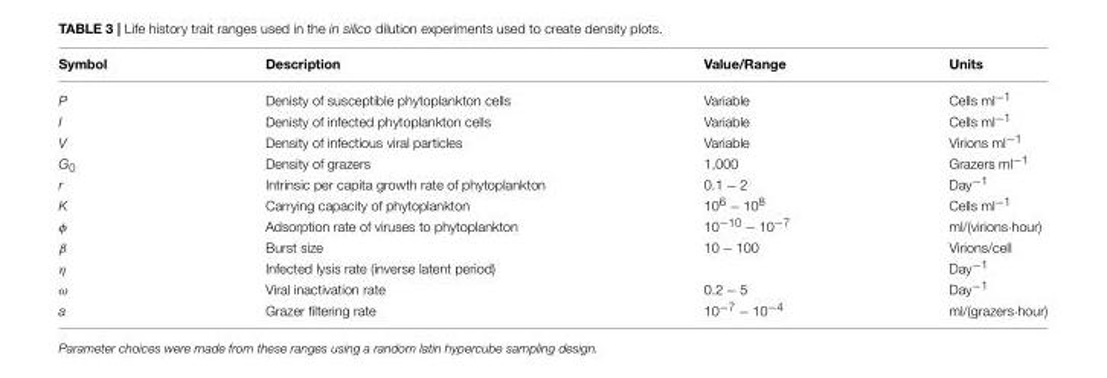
<table><thead><tr><td>Symbol</td><td>Description</td><td>Value/Range</td><td>Units</td></tr></thead><tbody><tr><td>P</td><td>Denisty of susceptible phytoplankton cells</td><td>Variable</td><td>Cells ml<sup>−1</sup></td></tr><tr><td>I</td><td>Denisty of infected phytoplankton cells</td><td>Variable</td><td>Cells ml<sup>−1</sup></td></tr><tr><td>V</td><td>Density of infectious viral particles</td><td>Variable</td><td>Virions ml<sup>−1</sup></td></tr><tr><td>G<sub>0</sub></td><td>Density of grazers</td><td>1,000</td><td>Grazers ml<sup>−1</sup></td></tr><tr><td>r</td><td>Intrinsic per capita growth rate of phytoplankton</td><td>0.1 − 2</td><td>Day<sup>−1</sup></td></tr><tr><td>K</td><td>Carrying capacity of phytoplankton</td><td>10<sup>6</sup> − 10<sup>8</sup></td><td>Cells ml<sup>−1</sup></td></tr><tr><td>φ</td><td>Adsorption rate of viruses to phytoplankton</td><td>10<sup>−10</sup> − 10<sup>−7</sup></td><td>ml/(virions·hour)</td></tr><tr><td>β</td><td>Burst size</td><td>10 − 100</td><td>Virions/cell</td></tr><tr><td>η</td><td>Infected lysis rate (inverse latent period)</td><td></td><td>Day<sup>−1</sup></td></tr><tr><td>ω</td><td>Viral inactivation rate</td><td>0.2 − 5</td><td>Day<sup>−1</sup></td></tr><tr><td>a</td><td>Grazer filtering rate</td><td>10<sup>−7</sup> − 10<sup>−4</sup></td><td>ml/(grazers·hour)</td></tr></tbody></table>